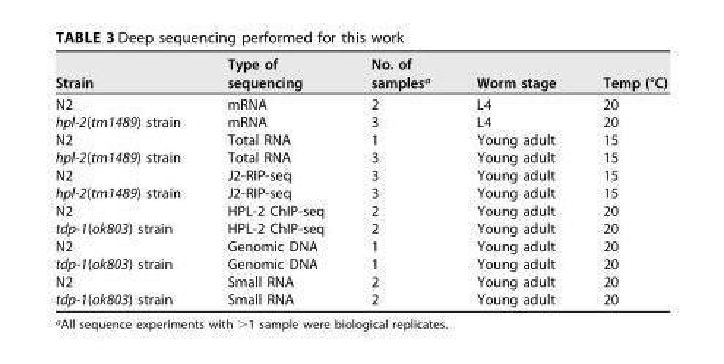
<table><thead><tr><td>Strain</td><td>Type of sequencing</td><td>No. of samples<sup>a</sup></td><td>Worm stage</td><td>Temp (°C)</td></tr></thead><tbody><tr><td>N2</td><td>mRNA</td><td>2</td><td>L4</td><td>20</td></tr><tr><td>hpl-2(tm1489) strain</td><td>mRNA</td><td>3</td><td>L4</td><td>20</td></tr><tr><td>N2</td><td>Total RNA</td><td>1</td><td>Young adult</td><td>15</td></tr><tr><td>hpl-2(tm1489) strain</td><td>Total RNA</td><td>3</td><td>Young adult</td><td>15</td></tr><tr><td>N2</td><td>J2-RIP-seq</td><td>3</td><td>Young adult</td><td>15</td></tr><tr><td>hpl-2(tm1489) strain</td><td>J2-RIP-seq</td><td>3</td><td>Young adult</td><td>15</td></tr><tr><td>N2</td><td>HPL-2 ChIP-seq</td><td>2</td><td>Young adult</td><td>20</td></tr><tr><td>tdp-1(ok803) strain</td><td>HPL-2 ChIP-seq</td><td>2</td><td>Young adult</td><td>20</td></tr><tr><td>N2</td><td>Genomic DNA</td><td>1</td><td>Young adult</td><td>20</td></tr><tr><td>tdp-1(ok803) strain</td><td>Genomic DNA</td><td>1</td><td>Young adult</td><td>20</td></tr><tr><td>N2</td><td>Small RNA</td><td>2</td><td>Young adult</td><td>20</td></tr><tr><td>tdp-1(ok803) strain</td><td>Small RNA</td><td>2</td><td>Young adult</td><td>20</td></tr></tbody></table>